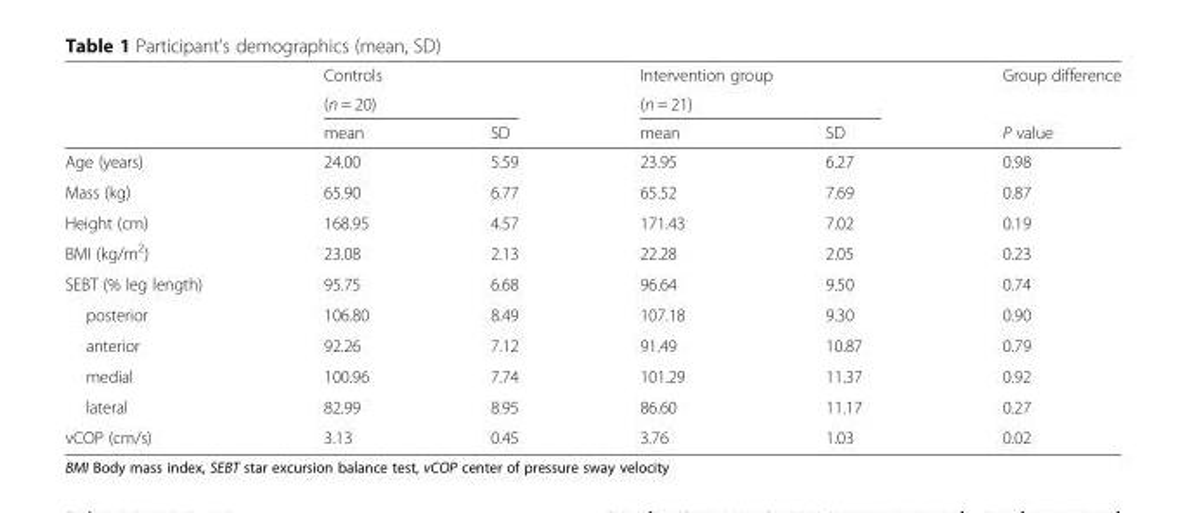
<table><thead><tr><td rowspan="3"></td><td rowspan="2" colspan="2">Controls (n = 20)</td><td rowspan="2" colspan="2">Intervention group (n = 21)</td><td rowspan="3">Group difference P value</td></tr><tr></tr><tr><td>mean</td><td>SD</td><td>mean</td><td>SD</td></tr></thead><tbody><tr><td>Age (years)</td><td>24.00</td><td>5.59</td><td>23.95</td><td>6.27</td><td>0.98</td></tr><tr><td>Mass (kg)</td><td>65.90</td><td>6.77</td><td>65.52</td><td>7.69</td><td>0.87</td></tr><tr><td>Height (cm)</td><td>168.95</td><td>4.57</td><td>171.43</td><td>7.02</td><td>0.19</td></tr><tr><td>BMI (kg/m<sup>2</sup>)</td><td>23.08</td><td>2.13</td><td>22.28</td><td>2.05</td><td>0.23</td></tr><tr><td>SEBT (% leg length)</td><td>95.75</td><td>6.68</td><td>96.64</td><td>9.50</td><td>0.74</td></tr><tr><td>posterior</td><td>106.80</td><td>8.49</td><td>107.18</td><td>9.30</td><td>0.90</td></tr><tr><td>anterior</td><td>92.26</td><td>7.12</td><td>91.49</td><td>10.87</td><td>0.79</td></tr><tr><td>medial</td><td>100.96</td><td>7.74</td><td>101.29</td><td>11.37</td><td>0.92</td></tr><tr><td>lateral</td><td>82.99</td><td>8.95</td><td>86.60</td><td>11.17</td><td>0.27</td></tr><tr><td>vCOP (cm/s)</td><td>3.13</td><td>0.45</td><td>3.76</td><td>1.03</td><td>0.02</td></tr></tbody></table>